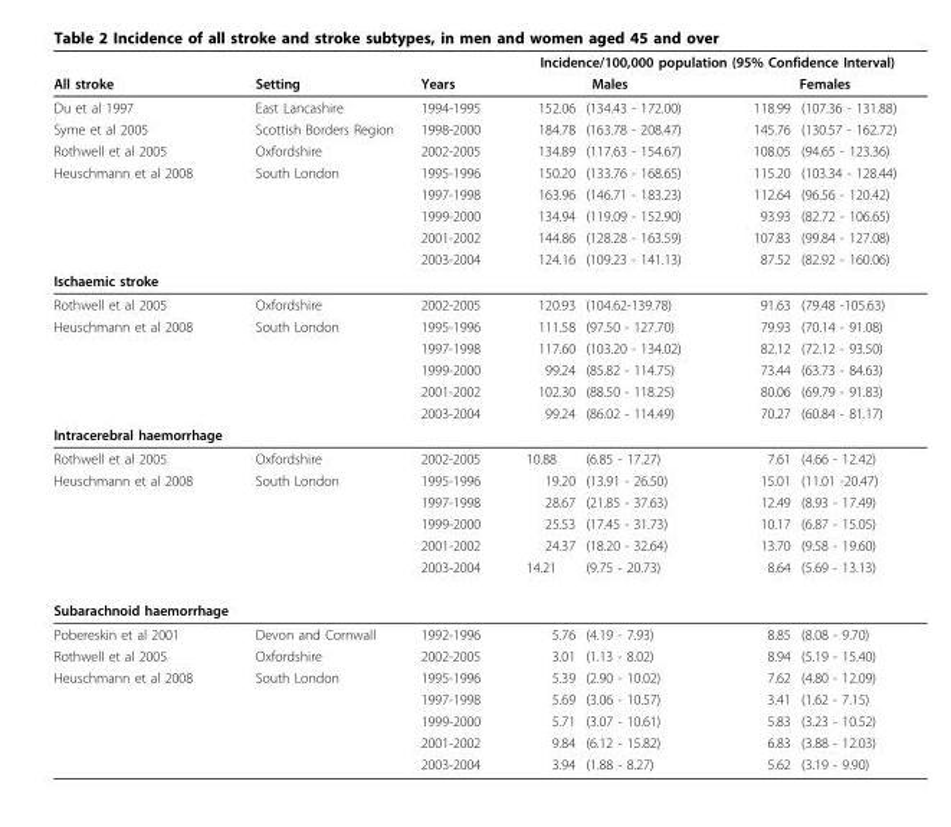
<table><thead><tr><td rowspan="3">All stroke Du et al 1997</td><td rowspan="3">Setting East Lancashire</td><td rowspan="3">Years 1994-1995</td><td colspan="4">Incidence/100,000 population (95% Confidence Interval)</td></tr><tr><td colspan="2">Males</td><td colspan="2">Females</td></tr><tr><td>152.06</td><td>(134.43 - 172.00)</td><td>118.99</td><td>(107.36 - 131.88)</td></tr></thead><tbody><tr><td>Syme et al 2005</td><td>Scottish Borders Region</td><td>1998-2000</td><td>184.78</td><td>(163.78 - 208.47)</td><td>145.76</td><td>(130.57 - 162.72)</td></tr><tr><td>Rothwell et al 2005</td><td>Oxfordshire</td><td>2002-2005</td><td>134.89</td><td>(117.63 - 154.67)</td><td>108.05</td><td>(94.65 - 123.36)</td></tr><tr><td rowspan="5">Heuschmann et al 2008</td><td>South London</td><td>1995-1996</td><td>150.20</td><td>(133.76 - 168.65)</td><td>115.20</td><td>(103.34 - 128.44)</td></tr><tr><td></td><td>1997-1998</td><td>163.96</td><td>(146.71 - 183.23)</td><td>112.64</td><td>(96.56 - 120.42)</td></tr><tr><td></td><td>1999-2000</td><td>134.94</td><td>(119.09 - 152.90)</td><td>93.93</td><td>(82.72 - 106.65)</td></tr><tr><td></td><td>2001-2002</td><td>144.86</td><td>(128.28 - 163.59)</td><td>107.83</td><td>(99.84 - 127.08)</td></tr><tr><td></td><td>2003-2004</td><td>124.16</td><td>(109.23 - 141.13)</td><td>87.52</td><td>(82.92 - 160.06)</td></tr><tr><td colspan="7">Ischaemic stroke</td></tr><tr><td>Rothwell et al 2005</td><td>Oxfordshire</td><td>2002-2005</td><td>120.93</td><td>(104.62-139.78)</td><td>91.63</td><td>(79.48 -105.63)</td></tr><tr><td rowspan="5">Heuschmann et al 2008</td><td>South London</td><td>1995-1996</td><td>111.58</td><td>(97.50 - 127.70)</td><td>79.93</td><td>(70.14 - 91.08)</td></tr><tr><td></td><td>1997-1998</td><td>117.60</td><td>(103.20 - 134.02)</td><td>82.12</td><td>(72.12 - 93.50)</td></tr><tr><td></td><td>1999-2000</td><td>99.24</td><td>(85.82 - 114.75)</td><td>73.44</td><td>(63.73 - 84.63)</td></tr><tr><td></td><td>2001-2002</td><td>102.30</td><td>(88.50 - 118.25)</td><td>80.06</td><td>(69.79 - 91.83)</td></tr><tr><td></td><td>2003-2004</td><td>99.24</td><td>(86.02 - 114.49)</td><td>70.27</td><td>(60.84 - 81.17)</td></tr><tr><td colspan="7">Intracerebral haemorrhage</td></tr><tr><td>Rothwell et al 2005</td><td>Oxfordshire</td><td>2002-2005</td><td>10.88</td><td>(6.85 - 17.27)</td><td>7.61</td><td>(4.66 - 12.42)</td></tr><tr><td rowspan="5">Heuschmann et al 2008</td><td>South London</td><td>1995-1996</td><td>19.20</td><td>(13.91 - 26.50)</td><td>15.01</td><td>(11.01 -20.47)</td></tr><tr><td></td><td>1997-1998</td><td>28.67</td><td>(21.85 - 37.63)</td><td>12.49</td><td>(8.93 - 17.49)</td></tr><tr><td></td><td>1999-2000</td><td>25.53</td><td>(17.45 - 31.73)</td><td>10.17</td><td>(6.87 - 15.05)</td></tr><tr><td></td><td>2001-2002</td><td>24.37</td><td>(18.20 - 32.64)</td><td>13.70</td><td>(9.58 - 19.60)</td></tr><tr><td></td><td>2003-2004</td><td>14.21</td><td>(9.75 - 20.73)</td><td>8.64</td><td>(5.69 - 13.13)</td></tr><tr><td colspan="7">Subarachnoid haemorrhage</td></tr><tr><td>Pobereskin et al 2001</td><td>Devon and Cornwall</td><td>1992-1996</td><td>5.76</td><td>(4.19 - 7.93)</td><td>8.85</td><td>(8.08 - 9.70)</td></tr><tr><td>Rothwell et al 2005</td><td>Oxfordshire</td><td>2002-2005</td><td>3.01</td><td>(1.13 - 8.02)</td><td>8.94</td><td>(5.19 - 15.40)</td></tr><tr><td rowspan="5">Heuschmann et al 2008</td><td>South London</td><td>1995-1996</td><td>5.39</td><td>(2.90 - 10.02)</td><td>7.62</td><td>(4.80 - 12.09)</td></tr><tr><td></td><td>1997-1998</td><td>5.69</td><td>(3.06 - 10.57)</td><td>3.41</td><td>(1.62 - 7.15)</td></tr><tr><td></td><td>1999-2000</td><td>5.71</td><td>(3.07 - 10.61)</td><td>5.83</td><td>(3.23 - 10.52)</td></tr><tr><td></td><td>2001-2002</td><td>9.84</td><td>(6.12 - 15.82)</td><td>6.83</td><td>(3.88 - 12.03)</td></tr><tr><td></td><td>2003-2004</td><td>3.94</td><td>(1.88 - 8.27)</td><td>5.62</td><td>(3.19 - 9.90)</td></tr></tbody></table>